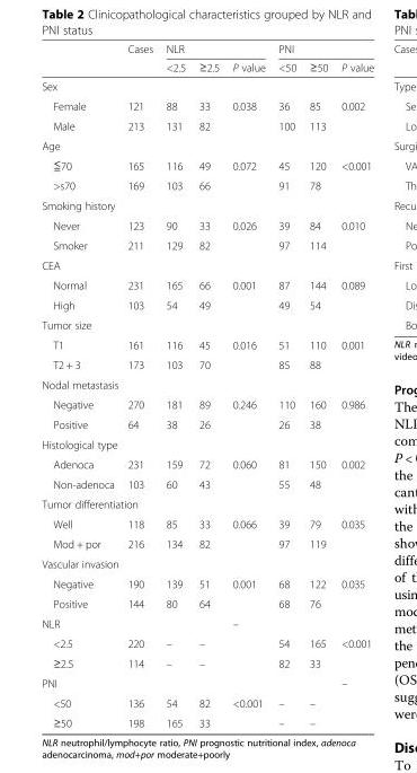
<table><thead><tr><td rowspan="2"></td><td rowspan="2">Cases</td><td colspan="3">NLR</td><td colspan="3">PNI</td></tr><tr><td>&lt;2.5</td><td>≥2.5</td><td>P value</td><td>&lt;50</td><td>≥50</td><td>P value</td></tr></thead><tbody><tr><td colspan="8">Sex</td></tr><tr><td>Female</td><td>121</td><td>88</td><td>33</td><td>0.038</td><td>36</td><td>85</td><td>0.002</td></tr><tr><td>Male</td><td>213</td><td>131</td><td>82</td><td></td><td>100</td><td>113</td><td></td></tr><tr><td colspan="8">Age</td></tr><tr><td>≦70</td><td>165</td><td>116</td><td>49</td><td>0.072</td><td>45</td><td>120</td><td>&lt;0.001</td></tr><tr><td>&gt;s70</td><td>169</td><td>103</td><td>66</td><td></td><td>91</td><td>78</td><td></td></tr><tr><td colspan="8">Smoking history</td></tr><tr><td>Never</td><td>123</td><td>90</td><td>33</td><td>0.026</td><td>39</td><td>84</td><td>0.010</td></tr><tr><td>Smoker</td><td>211</td><td>129</td><td>82</td><td></td><td>97</td><td>114</td><td></td></tr><tr><td colspan="8">CEA</td></tr><tr><td>Normal</td><td>231</td><td>165</td><td>66</td><td>0.001</td><td>87</td><td>144</td><td>0.089</td></tr><tr><td>High</td><td>103</td><td>54</td><td>49</td><td></td><td>49</td><td>54</td><td></td></tr><tr><td colspan="8">Tumor size</td></tr><tr><td>T1</td><td>161</td><td>116</td><td>45</td><td>0.016</td><td>51</td><td>110</td><td>0.001</td></tr><tr><td>T2 + 3</td><td>173</td><td>103</td><td>70</td><td></td><td>85</td><td>88</td><td></td></tr><tr><td colspan="8">Nodal metastasis</td></tr><tr><td>Negative</td><td>270</td><td>181</td><td>89</td><td>0.246</td><td>110</td><td>160</td><td>0.986</td></tr><tr><td>Positive</td><td>64</td><td>38</td><td>26</td><td></td><td>26</td><td>38</td><td></td></tr><tr><td colspan="8">Histological type</td></tr><tr><td>Adenoca</td><td>231</td><td>159</td><td>72</td><td>0.060</td><td>81</td><td>150</td><td>0.002</td></tr><tr><td>Non-adenoca</td><td>103</td><td>60</td><td>43</td><td></td><td>55</td><td>48</td><td></td></tr><tr><td colspan="8">Tumor differentiation</td></tr><tr><td>Well</td><td>118</td><td>85</td><td>33</td><td>0.066</td><td>39</td><td>79</td><td>0.035</td></tr><tr><td>Mod + por</td><td>216</td><td>134</td><td>82</td><td></td><td>97</td><td>119</td><td></td></tr><tr><td colspan="8">Vascular invasion</td></tr><tr><td>Negative</td><td>190</td><td>139</td><td>51</td><td>0.001</td><td>68</td><td>122</td><td>0.035</td></tr><tr><td>Positive</td><td>144</td><td>80</td><td>64</td><td></td><td>68</td><td>76</td><td></td></tr><tr><td>NLR</td><td></td><td></td><td></td><td>–</td><td></td><td></td><td></td></tr><tr><td>&lt;2.5</td><td>220</td><td>–</td><td>–</td><td></td><td>54</td><td>165</td><td>&lt;0.001</td></tr><tr><td>≥2.5</td><td>114</td><td>–</td><td>–</td><td></td><td>82</td><td>33</td><td></td></tr><tr><td>PNI</td><td></td><td></td><td></td><td></td><td></td><td></td><td>–</td></tr><tr><td>&lt;50</td><td>136</td><td>54</td><td>82</td><td>&lt;0.001</td><td>–</td><td>–</td><td></td></tr><tr><td>≥50</td><td>198</td><td>165</td><td>33</td><td></td><td>–</td><td>–</td><td></td></tr></tbody></table>